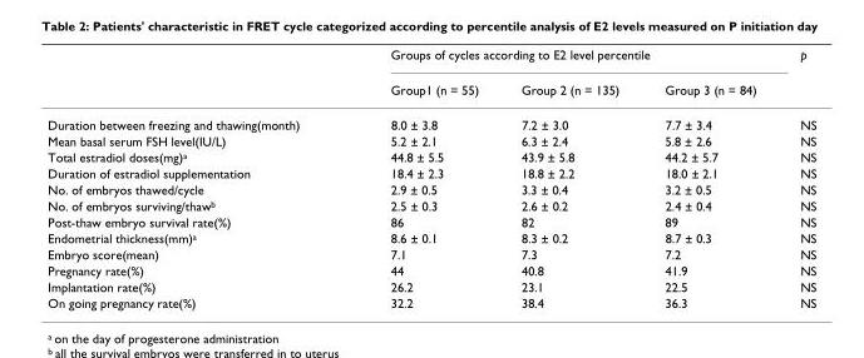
<table><thead><tr><td rowspan="2"></td><td colspan="3">Groups of cycles according to E2 level percentile</td><td rowspan="2">p</td></tr><tr><td>Group1 (n = 55)</td><td>Group 2 (n = 135)</td><td>Group 3 (n = 84)</td></tr></thead><tbody><tr><td>Duration between freezing and thawing(month)</td><td>8.0 ± 3.8</td><td>7.2 ± 3.0</td><td>7.7 ± 3.4</td><td>NS</td></tr><tr><td>Mean basal serum FSH level(IU/L)</td><td>5.2 ± 2.1</td><td>6.3 ± 2.4</td><td>5.8 ± 2.6</td><td>NS</td></tr><tr><td>Total estradiol doses(mg)<sup>a</sup></td><td>44.8 ± 5.5</td><td>43.9 ± 5.8</td><td>44.2 ± 5.7</td><td>NS</td></tr><tr><td>Duration of estradiol supplementation</td><td>18.4 ± 2.3</td><td>18.8 ± 2.2</td><td>18.0 ± 2.1</td><td>NS</td></tr><tr><td>No. of embryos thawed/cycle</td><td>2.9 ± 0.5</td><td>3.3 ± 0.4</td><td>3.2 ± 0.5</td><td>NS</td></tr><tr><td>No. of embryos surviving/thaw<sup>b</sup></td><td>2.5 ± 0.3</td><td>2.6 ± 0.2</td><td>2.4 ± 0.4</td><td>NS</td></tr><tr><td>Post-thaw embryo survival rate(%)</td><td>86</td><td>82</td><td>89</td><td>NS</td></tr><tr><td>Endometrial thickness(mm)<sup>a</sup></td><td>8.6 ± 0.1</td><td>8.3 ± 0.2</td><td>8.7 ± 0.3</td><td>NS</td></tr><tr><td>Embryo score(mean)</td><td>7.1</td><td>7.3</td><td>7.2</td><td>NS</td></tr><tr><td>Pregnancy rate(%)</td><td>44</td><td>40.8</td><td>41.9</td><td>NS</td></tr><tr><td>Implantation rate(%)</td><td>26.2</td><td>23.1</td><td>22.5</td><td>NS</td></tr><tr><td>On going pregnancy rate(%)</td><td>32.2</td><td>38.4</td><td>36.3</td><td>NS</td></tr></tbody></table>